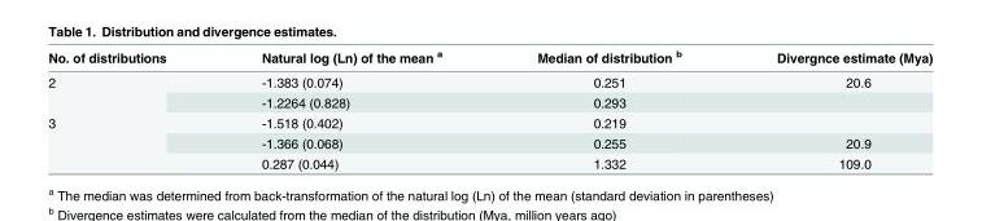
<table><thead><tr><td>No. of distributions</td><td>Natural log (Ln) of the mean <sup>a</sup></td><td>Median of distribution <sup>b</sup></td><td>Divergnce estimate (Mya)</td></tr></thead><tbody><tr><td rowspan="2">2</td><td>-1.383 (0.074)</td><td>0.251</td><td>20.6</td></tr><tr><td>-1.2264 (0.828)</td><td>0.293</td><td></td></tr><tr><td rowspan="3">3</td><td>-1.518 (0.402)</td><td>0.219</td><td></td></tr><tr><td>-1.366 (0.068)</td><td>0.255</td><td>20.9</td></tr><tr><td>0.287 (0.044)</td><td>1.332</td><td>109.0</td></tr></tbody></table>